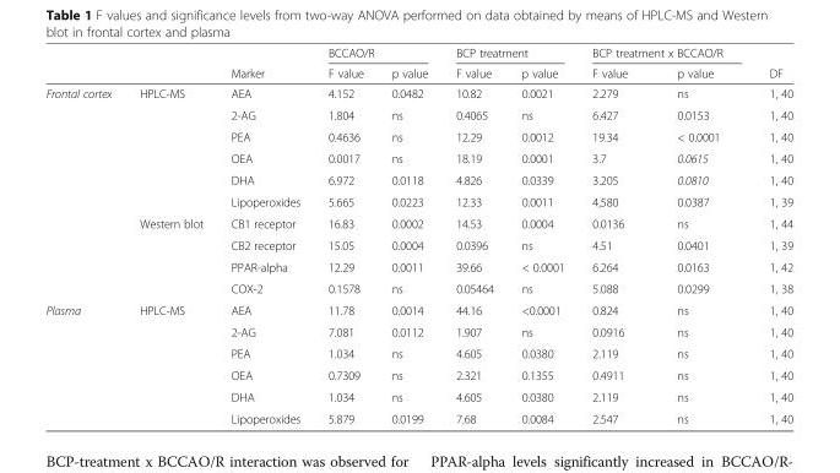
<table><thead><tr><td rowspan="2"></td><td rowspan="2"></td><td rowspan="2">Marker</td><td colspan="2">BCCAO/R</td><td colspan="2">BCP treatment</td><td colspan="2">BCP treatment x BCCAO/R</td><td rowspan="2">DF</td></tr><tr><td>F value</td><td>p value</td><td>F value</td><td>p value</td><td>F value</td><td>p value</td></tr></thead><tbody><tr><td rowspan="10">Frontal cortex</td><td rowspan="6">HPLC-MS</td><td>AEA</td><td>4.152</td><td>0.0482</td><td>10.82</td><td>0.0021</td><td>2.279</td><td>ns</td><td>1, 40</td></tr><tr><td>2-AG</td><td>1.804</td><td>ns</td><td>0.4065</td><td>ns</td><td>6.427</td><td>0.0153</td><td>1, 40</td></tr><tr><td>PEA</td><td>0.4636</td><td>ns</td><td>12.29</td><td>0.0012</td><td>19.34</td><td>&lt; 0.0001</td><td>1, 40</td></tr><tr><td>OEA</td><td>0.0017</td><td>ns</td><td>18.19</td><td>0.0001</td><td>3.7</td><td>0.0615</td><td>1, 40</td></tr><tr><td>DHA</td><td>6.972</td><td>0.0118</td><td>4.826</td><td>0.0339</td><td>3.205</td><td>0.0810</td><td>1, 40</td></tr><tr><td>Lipoperoxides</td><td>5.665</td><td>0.0223</td><td>12.33</td><td>0.0011</td><td>4,580</td><td>0.0387</td><td>1, 39</td></tr><tr><td rowspan="4">Western blot</td><td>CB1 receptor</td><td>16.83</td><td>0.0002</td><td>14.53</td><td>0.0004</td><td>0.0136</td><td>ns</td><td>1, 44</td></tr><tr><td>CB2 receptor</td><td>15.05</td><td>0.0004</td><td>0.0396</td><td>ns</td><td>4.51</td><td>0.0401</td><td>1, 39</td></tr><tr><td>PPAR-alpha</td><td>12.29</td><td>0.0011</td><td>39.66</td><td>&lt; 0.0001</td><td>6.264</td><td>0.0163</td><td>1, 42</td></tr><tr><td>COX-2</td><td>0.1578</td><td>ns</td><td>0.05464</td><td>ns</td><td>5.088</td><td>0.0299</td><td>1, 38</td></tr><tr><td rowspan="6">Plasma</td><td rowspan="6">HPLC-MS</td><td>AEA</td><td>11.78</td><td>0.0014</td><td>44.16</td><td>&lt;0.0001</td><td>0.824</td><td>ns</td><td>1, 40</td></tr><tr><td>2-AG</td><td>7.081</td><td>0.0112</td><td>1.907</td><td>ns</td><td>0.0916</td><td>ns</td><td>1, 40</td></tr><tr><td>PEA</td><td>1.034</td><td>ns</td><td>4.605</td><td>0.0380</td><td>2.119</td><td>ns</td><td>1, 40</td></tr><tr><td>OEA</td><td>0.7309</td><td>ns</td><td>2.321</td><td>0.1355</td><td>0.4911</td><td>ns</td><td>1, 40</td></tr><tr><td>DHA</td><td>1.034</td><td>ns</td><td>4.605</td><td>0.0380</td><td>2.119</td><td>ns</td><td>1, 40</td></tr><tr><td>Lipoperoxides</td><td>5.879</td><td>0.0199</td><td>7.68</td><td>0.0084</td><td>2.547</td><td>ns</td><td>1, 40</td></tr></tbody></table>